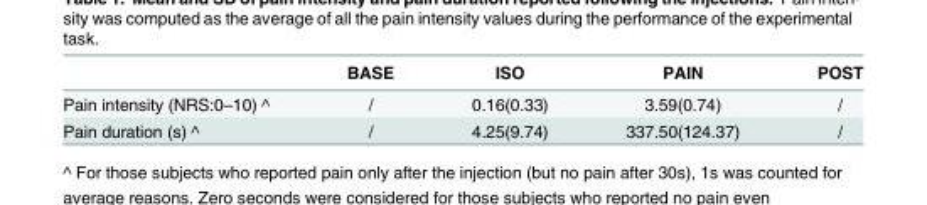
<table><thead><tr><td></td><td>BASE</td><td>ISO</td><td>PAIN</td><td>POST</td></tr></thead><tbody><tr><td>Pain intensity (NRS:0–10) ^</td><td>/</td><td>0.16(0.33)</td><td>3.59(0.74)</td><td>/</td></tr><tr><td>Pain duration (s) ^</td><td>/</td><td>4.25(9.74)</td><td>337.50(124.37)</td><td>/</td></tr></tbody></table>